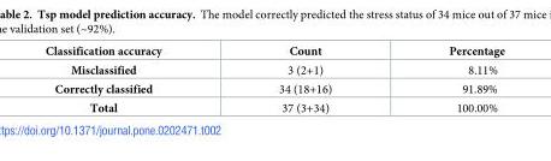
<table><thead><tr><td>Classification accuracy</td><td>Count</td><td>Percentage</td></tr></thead><tbody><tr><td>Misclassified</td><td>3 (2+1)</td><td>8.11%</td></tr><tr><td>Correctly classified</td><td>34 (18+16)</td><td>91.89%</td></tr><tr><td>Total</td><td>37 (3+34)</td><td>100.00%</td></tr></tbody></table>